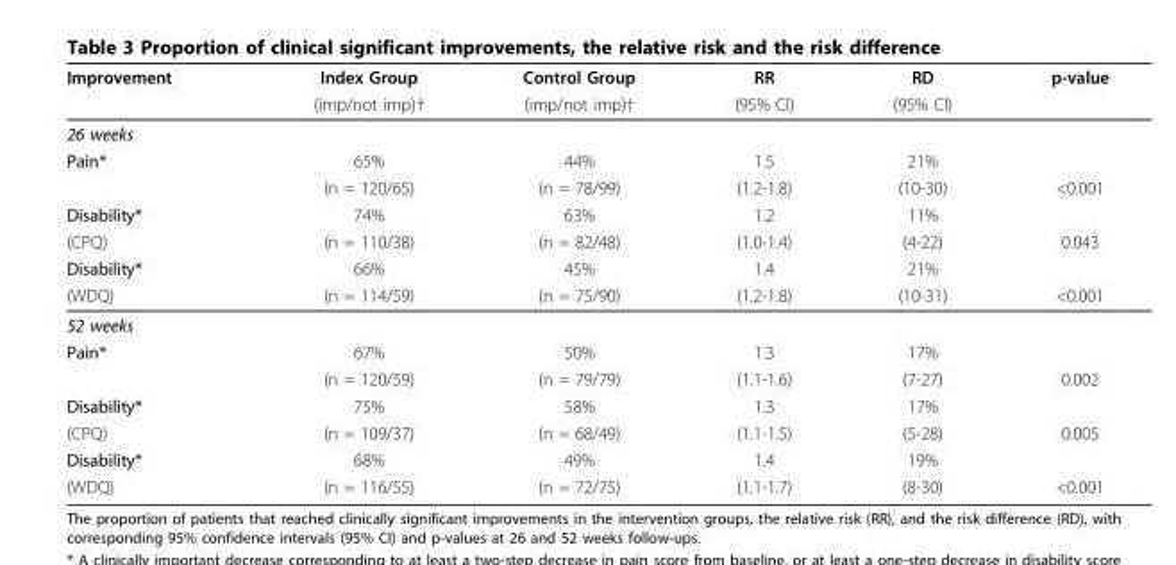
<table><thead><tr><td rowspan="2">Improvement</td><td rowspan="2">Index Group (imp/not imp)†</td><td rowspan="2">Control Group (imp/not imp)†</td><td rowspan="2">RR (95% CI)</td><td rowspan="2">RD (95% CI)</td><td rowspan="2">p-value</td></tr><tr></tr></thead><tbody><tr><td colspan="6">26 weeks</td></tr><tr><td rowspan="2">Pain*</td><td>65%</td><td>44%</td><td>1.5</td><td>21%</td><td></td></tr><tr><td>(n = 120/65)</td><td>(n = 78/99)</td><td>(1.2-1.8)</td><td>(10-30)</td><td>&lt;0.001</td></tr><tr><td>Disability*</td><td>74%</td><td>63%</td><td>1.2</td><td>11%</td><td></td></tr><tr><td>(CPQ)</td><td>(n = 110/38)</td><td>(n = 82/48)</td><td>(1.0-1.4)</td><td>(4-22)</td><td>0.043</td></tr><tr><td>Disability*</td><td>66%</td><td>45%</td><td>1.4</td><td>21%</td><td></td></tr><tr><td>(WDQ)</td><td>(n = 114/59)</td><td>(n = 75/90)</td><td>(1.2-1.8)</td><td>(10-31)</td><td>&lt;0.001</td></tr><tr><td colspan="6">52 weeks</td></tr><tr><td rowspan="2">Pain*</td><td>67%</td><td>50%</td><td>1.3</td><td>17%</td><td></td></tr><tr><td>(n = 120/59)</td><td>(n = 79/79)</td><td>(1.1-1.6)</td><td>(7-27)</td><td>0.002</td></tr><tr><td>Disability*</td><td>75%</td><td>58%</td><td>1.3</td><td>17%</td><td></td></tr><tr><td>(CPQ)</td><td>(n = 109/37)</td><td>(n = 68/49)</td><td>(1.1-1.5)</td><td>(5-28)</td><td>0.005</td></tr><tr><td>Disability*</td><td>68%</td><td>49%</td><td>1.4</td><td>19%</td><td></td></tr><tr><td>(WDQ)</td><td>(n = 116/55)</td><td>(n = 72/75)</td><td>(1.1-1.7)</td><td>(8-30)</td><td>&lt;0.001</td></tr></tbody></table>